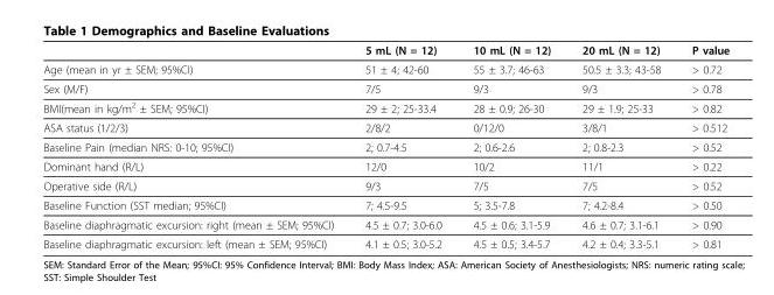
<table><thead><tr><td></td><td>5 mL (N = 12)</td><td>10 mL (N = 12)</td><td>20 mL (N = 12)</td><td>P value</td></tr></thead><tbody><tr><td>Age (mean in yr ± SEM; 95%CI)</td><td>51 ± 4; 42-60</td><td>55 ± 3.7; 46-63</td><td>50.5 ± 3.3; 43-58</td><td>&gt; 0.72</td></tr><tr><td>Sex (M/F)</td><td>7/5</td><td>9/3</td><td>9/3</td><td>&gt; 0.78</td></tr><tr><td>BMI(mean in kg/m<sup>2</sup> ± SEM; 95%CI)</td><td>29 ± 2; 25-33.4</td><td>28 ± 0.9; 26-30</td><td>29 ± 1.9; 25-33</td><td>&gt; 0.82</td></tr><tr><td>ASA status (1/2/3)</td><td>2/8/2</td><td>0/12/0</td><td>3/8/1</td><td>&gt; 0.512</td></tr><tr><td>Baseline Pain (median NRS: 0-10; 95%CI)</td><td>2; 0.7-4.5</td><td>2; 0.6-2.6</td><td>2; 0.8-2.3</td><td>&gt; 0.52</td></tr><tr><td>Dominant hand (R/L)</td><td>12/0</td><td>10/2</td><td>11/1</td><td>&gt; 0.22</td></tr><tr><td>Operative side (R/L)</td><td>9/3</td><td>7/5</td><td>7/5</td><td>&gt; 0.52</td></tr><tr><td>Baseline Function (SST median; 95%CI)</td><td>7; 4.5-9.5</td><td>5; 3.5-7.8</td><td>7; 4.2-8.4</td><td>&gt; 0.50</td></tr><tr><td>Baseline diaphragmatic excursion: right (mean ± SEM; 95%CI)</td><td>4.5 ± 0.7; 3.0-6.0</td><td>4.5 ± 0.6; 3.1-5.9</td><td>4.6 ± 0.7; 3.1-6.1</td><td>&gt; 0.90</td></tr><tr><td>Baseline diaphragmatic excursion: left (mean ± SEM; 95%CI)</td><td>4.1 ± 0.5; 3.0-5.2</td><td>4.5 ± 0.5; 3.4-5.7</td><td>4.2 ± 0.4; 3.3-5.1</td><td>&gt; 0.81</td></tr></tbody></table>